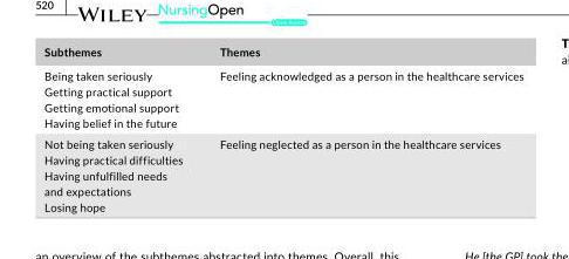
<table><thead><tr><td>Subthemes</td><td>Themes</td></tr></thead><tbody><tr><td>Being taken seriously Getting practical support Getting emotional support Having belief in the future</td><td>Feeling acknowledged as a person in the healthcare services</td></tr><tr><td>Not being taken seriously Having practical difficulties Having unfulfilled needs and expectations Losing hope</td><td>Feeling neglected as a person in the healthcare services</td></tr></tbody></table>